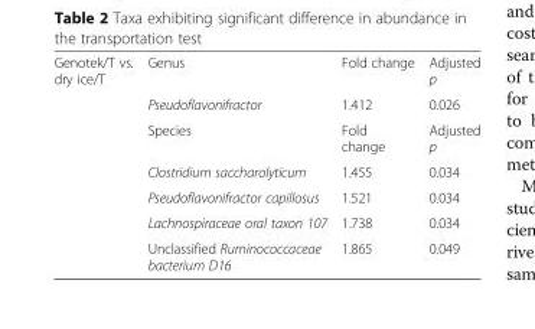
<table><tbody><tr><td rowspan="7">Genotek/T vs. dry ice/T</td><td>Genus</td><td>Fold change</td><td>Adjusted p</td></tr><tr><td>Pseudoflavonifractor</td><td>1.412</td><td>0.026</td></tr><tr><td>Species</td><td>Fold change</td><td>Adjusted p</td></tr><tr><td>Clostridium saccharolyticum</td><td>1.455</td><td>0.034</td></tr><tr><td>Pseudoflavonifractor capillosus</td><td>1.521</td><td>0.034</td></tr><tr><td>Lachnospiraceae oral taxon 107</td><td>1.738</td><td>0.034</td></tr><tr><td>Unclassified Ruminococcaceae bacterium D16</td><td>1.865</td><td>0.049</td></tr></tbody></table>